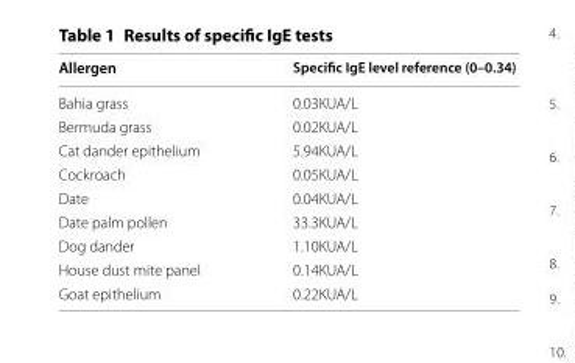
<table><thead><tr><td>Allergen</td><td>Specific IgE level reference (0–0.34)</td></tr></thead><tbody><tr><td>Bahia grass</td><td>0.03KUA/L</td></tr><tr><td>Bermuda grass</td><td>0.02KUA/L</td></tr><tr><td>Cat dander epithelium</td><td>5.94KUA/L</td></tr><tr><td>Cockroach</td><td>0.05KUA/L</td></tr><tr><td>Date</td><td>0.04KUA/L</td></tr><tr><td>Date palm pollen</td><td>33.3KUA/L</td></tr><tr><td>Dog dander</td><td>1.10KUA/L</td></tr><tr><td>House dust mite panel</td><td>0.14KUA/L</td></tr><tr><td>Goat epithelium</td><td>0.22KUA/L</td></tr></tbody></table>